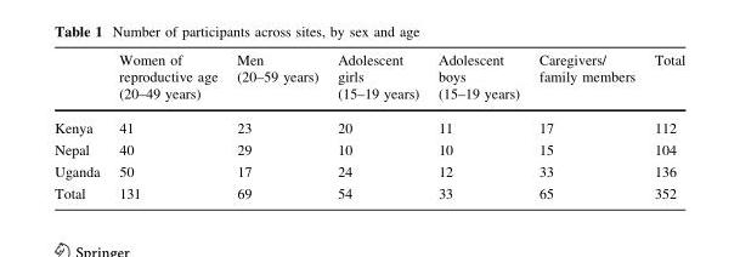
<table><thead><tr><td></td><td>Women of reproductive age (20–49 years)</td><td>Men (20–59 years)</td><td>Adolescent girls (15–19 years)</td><td>Adolescent boys (15–19 years)</td><td>Caregivers/ family members</td><td>Total</td></tr></thead><tbody><tr><td>Kenya</td><td>41</td><td>23</td><td>20</td><td>11</td><td>17</td><td>112</td></tr><tr><td>Nepal</td><td>40</td><td>29</td><td>10</td><td>10</td><td>15</td><td>104</td></tr><tr><td>Uganda</td><td>50</td><td>17</td><td>24</td><td>12</td><td>33</td><td>136</td></tr><tr><td>Total</td><td>131</td><td>69</td><td>54</td><td>33</td><td>65</td><td>352</td></tr></tbody></table>